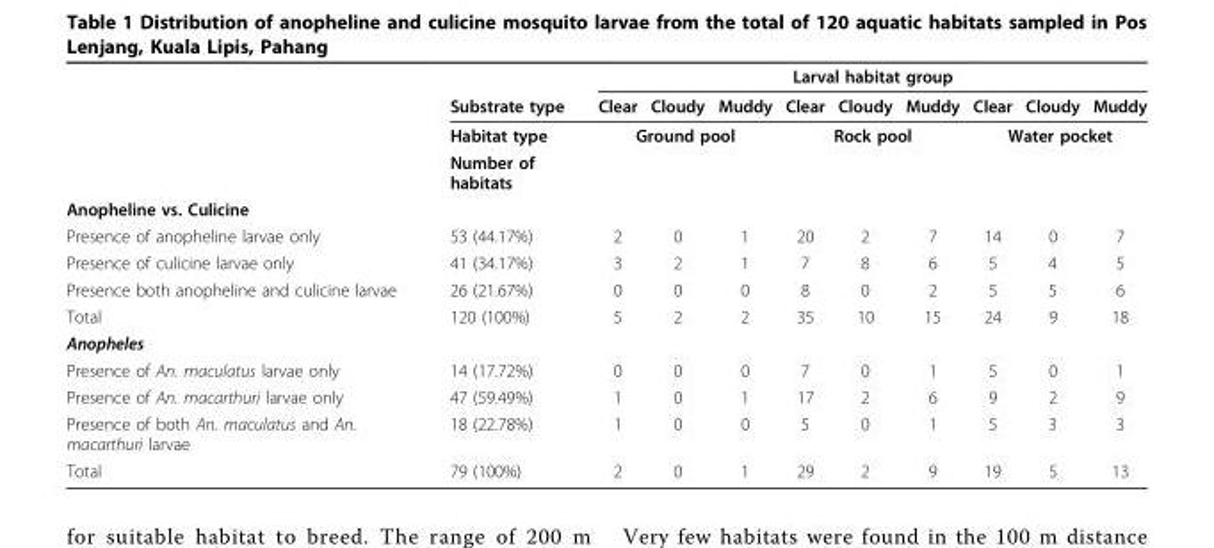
<table><thead><tr><td rowspan="2"></td><td rowspan="2">Substrate type</td><td colspan="9">Larval habitat group</td></tr><tr><td>Clear</td><td>Cloudy</td><td>Muddy</td><td>Clear</td><td>Cloudy</td><td>Muddy</td><td>Clear</td><td>Cloudy</td><td>Muddy</td></tr></thead><tbody><tr><td></td><td>Habitat type</td><td colspan="3">Ground pool</td><td colspan="3">Rock pool</td><td colspan="3">Water pocket</td></tr><tr><td></td><td>Number of habitats</td><td></td><td></td><td></td><td></td><td></td><td></td><td></td><td></td><td></td></tr><tr><td colspan="11">Anopheline vs. Culicine</td></tr><tr><td>Presence of anopheline larvae only</td><td>53 (44.17%)</td><td>2</td><td>0</td><td>1</td><td>20</td><td>2</td><td>7</td><td>14</td><td>0</td><td>7</td></tr><tr><td>Presence of culicine larvae only</td><td>41 (34.17%)</td><td>3</td><td>2</td><td>1</td><td>7</td><td>8</td><td>6</td><td>5</td><td>4</td><td>5</td></tr><tr><td>Presence both anopheline and culicine larvae</td><td>26 (21.67%)</td><td>0</td><td>0</td><td>0</td><td>8</td><td>0</td><td>2</td><td>5</td><td>5</td><td>6</td></tr><tr><td>Total</td><td>120 (100%)</td><td>5</td><td>2</td><td>2</td><td>35</td><td>10</td><td>15</td><td>24</td><td>9</td><td>18</td></tr><tr><td colspan="11">Anopheles</td></tr><tr><td>Presence of An. maculatus larvae only</td><td>14 (17.72%)</td><td>0</td><td>0</td><td>0</td><td>7</td><td>0</td><td>1</td><td>5</td><td>0</td><td>1</td></tr><tr><td>Presence of An. macarthuri larvae only</td><td>47 (59.49%)</td><td>1</td><td>0</td><td>1</td><td>17</td><td>2</td><td>6</td><td>9</td><td>2</td><td>9</td></tr><tr><td>Presence of both An. maculatus and An. macarthuri larvae</td><td>18 (22.78%)</td><td>1</td><td>0</td><td>0</td><td>5</td><td>0</td><td>1</td><td>5</td><td>3</td><td>3</td></tr><tr><td>Total</td><td>79 (100%)</td><td>2</td><td>0</td><td>1</td><td>29</td><td>2</td><td>9</td><td>19</td><td>5</td><td>13</td></tr></tbody></table>